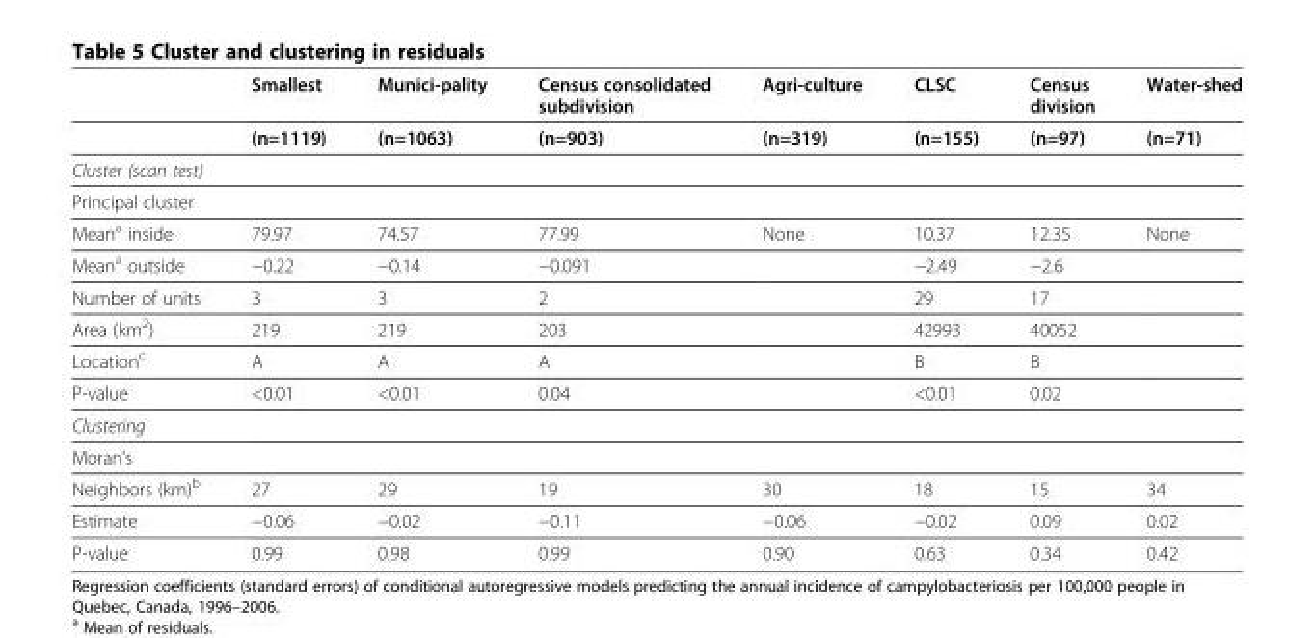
<table><thead><tr><td></td><td>Smallest</td><td>Munici-pality</td><td>Census consolidated subdivision</td><td>Agri-culture</td><td>CLSC</td><td>Census division</td><td>Water-shed</td></tr></thead><tbody><tr><td></td><td>(n=1119)</td><td>(n=1063)</td><td>(n=903)</td><td>(n=319)</td><td>(n=155)</td><td>(n=97)</td><td>(n=71)</td></tr><tr><td colspan="8">Cluster (scan test)</td></tr><tr><td colspan="8">Principal cluster</td></tr><tr><td>Mean<sup>a</sup> inside</td><td>79.97</td><td>74.57</td><td>77.99</td><td>None</td><td>10.37</td><td>12.35</td><td>None</td></tr><tr><td>Mean<sup>a</sup> outside</td><td>−0.22</td><td>−0.14</td><td>−0.091</td><td></td><td>−2.49</td><td>−2.6</td><td></td></tr><tr><td>Number of units</td><td>3</td><td>3</td><td>2</td><td></td><td>29</td><td>17</td><td></td></tr><tr><td>Area (km<sup>2</sup>)</td><td>219</td><td>219</td><td>203</td><td></td><td>42993</td><td>40052</td><td></td></tr><tr><td>Location<sup>c</sup></td><td>A</td><td>A</td><td>A</td><td></td><td>B</td><td>B</td><td></td></tr><tr><td>P-value</td><td>&lt;0.01</td><td>&lt;0.01</td><td>0.04</td><td></td><td>&lt;0.01</td><td>0.02</td><td></td></tr><tr><td colspan="8">Clustering</td></tr><tr><td colspan="8">Moran’s</td></tr><tr><td>Neighbors (km)<sup>b</sup></td><td>27</td><td>29</td><td>19</td><td>30</td><td>18</td><td>15</td><td>34</td></tr><tr><td>Estimate</td><td>−0.06</td><td>−0.02</td><td>−0.11</td><td>−0.06</td><td>−0.02</td><td>0.09</td><td>0.02</td></tr><tr><td>P-value</td><td>0.99</td><td>0.98</td><td>0.99</td><td>0.90</td><td>0.63</td><td>0.34</td><td>0.42</td></tr></tbody></table>